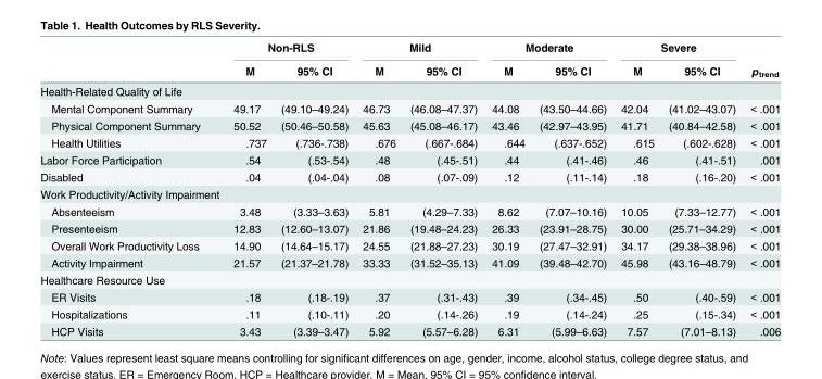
<table><thead><tr><td rowspan="2"></td><td colspan="2">Non-RLS</td><td colspan="2">Mild</td><td colspan="2">Moderate</td><td colspan="2">Severe</td><td rowspan="2">p<sub>trend</sub></td></tr><tr><td>M</td><td>95% CI</td><td>M</td><td>95% CI</td><td>M</td><td>95% CI</td><td>M</td><td>95% CI</td></tr></thead><tbody><tr><td colspan="10">Health-Related Quality of Life</td></tr><tr><td>Mental Component Summary</td><td>49.17</td><td>(49.10–49.24)</td><td>46.73</td><td>(46.08–47.37)</td><td>44.08</td><td>(43.50–44.66)</td><td>42.04</td><td>(41.02–43.07)</td><td>&lt; .001</td></tr><tr><td>Physical Component Summary</td><td>50.52</td><td>(50.46–50.58)</td><td>45.63</td><td>(45.08–46.17)</td><td>43.46</td><td>(42.97–43.95)</td><td>41.71</td><td>(40.84–42.58)</td><td>&lt; .001</td></tr><tr><td>Health Utilities</td><td>.737</td><td>(.736-.738)</td><td>.676</td><td>(.667-.684)</td><td>.644</td><td>(.637-.652)</td><td>.615</td><td>(.602-.628)</td><td>&lt; .001</td></tr><tr><td>Labor Force Participation</td><td>.54</td><td>(.53-.54)</td><td>.48</td><td>(.45-.51)</td><td>.44</td><td>(.41-.46)</td><td>.46</td><td>(.41-.51)</td><td>.001</td></tr><tr><td>Disabled</td><td>.04</td><td>(.04-.04)</td><td>.08</td><td>(.07-.09)</td><td>.12</td><td>(.11-.14)</td><td>.18</td><td>(.16-.20)</td><td>&lt; .001</td></tr><tr><td colspan="10">Work Productivity/Activity Impairment</td></tr><tr><td>Absenteeism</td><td>3.48</td><td>(3.33–3.63)</td><td>5.81</td><td>(4.29–7.33)</td><td>8.62</td><td>(7.07–10.16)</td><td>10.05</td><td>(7.33–12.77)</td><td>&lt; .001</td></tr><tr><td>Presenteeism</td><td>12.83</td><td>(12.60–13.07)</td><td>21.86</td><td>(19.48–24.23)</td><td>26.33</td><td>(23.91–28.75)</td><td>30.00</td><td>(25.71–34.29)</td><td>&lt; .001</td></tr><tr><td>Overall Work Productivity Loss</td><td>14.90</td><td>(14.64–15.17)</td><td>24.55</td><td>(21.88–27.23)</td><td>30.19</td><td>(27.47–32.91)</td><td>34.17</td><td>(29.38–38.96)</td><td>&lt; .001</td></tr><tr><td>Activity Impairment</td><td>21.57</td><td>(21.37–21.78)</td><td>33.33</td><td>(31.52–35.13)</td><td>41.09</td><td>(39.48–42.70)</td><td>45.98</td><td>(43.16–48.79)</td><td>&lt; .001</td></tr><tr><td colspan="10">Healthcare Resource Use</td></tr><tr><td>ER Visits</td><td>.18</td><td>(.18-.19)</td><td>.37</td><td>(.31-.43)</td><td>.39</td><td>(.34-.45)</td><td>.50</td><td>(.40-.59)</td><td>&lt; .001</td></tr><tr><td>Hospitalizations</td><td>.11</td><td>(.10-.11)</td><td>.20</td><td>(.14-.26)</td><td>.19</td><td>(.14-.24)</td><td>.25</td><td>(.15-.34)</td><td>&lt; .001</td></tr><tr><td>HCP Visits</td><td>3.43</td><td>(3.39–3.47)</td><td>5.92</td><td>(5.57–6.28)</td><td>6.31</td><td>(5.99–6.63)</td><td>7.57</td><td>(7.01–8.13)</td><td>.006</td></tr></tbody></table>